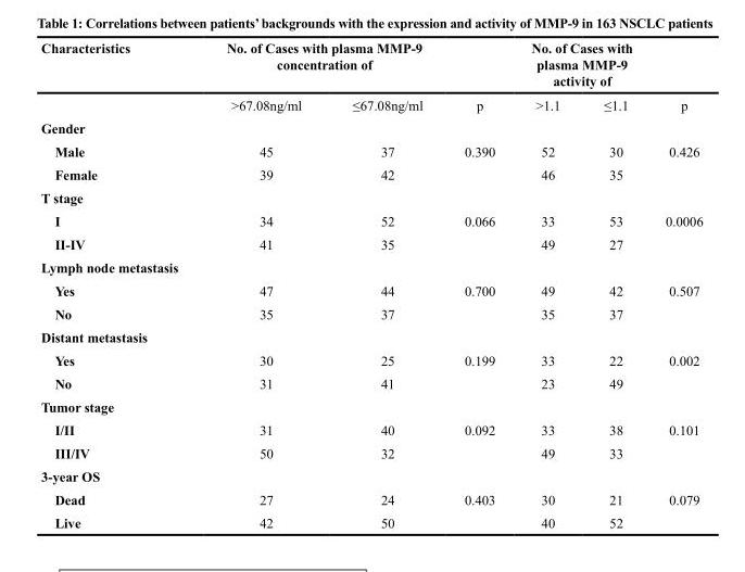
<table><thead><tr><td rowspan="2">Characteristics</td><td colspan="3">No. of Cases with plasma MMP-9 concentration of</td><td colspan="3">No. of Cases with plasma MMP-9 activity of</td></tr><tr><td>&gt;67.08ng/ml</td><td>≤67.08ng/ml</td><td>p</td><td>&gt;1.1</td><td>≤1.1</td><td>p</td></tr></thead><tbody><tr><td colspan="7">Gender</td></tr><tr><td>Male</td><td>45</td><td>37</td><td>0.390</td><td>52</td><td>30</td><td>0.426</td></tr><tr><td>Female</td><td>39</td><td>42</td><td></td><td>46</td><td>35</td><td></td></tr><tr><td colspan="7">T stage</td></tr><tr><td>I</td><td>34</td><td>52</td><td>0.066</td><td>33</td><td>53</td><td>0.0006</td></tr><tr><td>II-IV</td><td>41</td><td>35</td><td></td><td>49</td><td>27</td><td></td></tr><tr><td colspan="7">Lymph node metastasis</td></tr><tr><td>Yes</td><td>47</td><td>44</td><td>0.700</td><td>49</td><td>42</td><td>0.507</td></tr><tr><td>No</td><td>35</td><td>37</td><td></td><td>35</td><td>37</td><td></td></tr><tr><td colspan="7">Distant metastasis</td></tr><tr><td>Yes</td><td>30</td><td>25</td><td>0.199</td><td>33</td><td>22</td><td>0.002</td></tr><tr><td>No</td><td>31</td><td>41</td><td></td><td>23</td><td>49</td><td></td></tr><tr><td colspan="7">Tumor stage</td></tr><tr><td>I/II</td><td>31</td><td>40</td><td>0.092</td><td>33</td><td>38</td><td>0.101</td></tr><tr><td>III/IV</td><td>50</td><td>32</td><td></td><td>49</td><td>33</td><td></td></tr><tr><td colspan="7">3-year OS</td></tr><tr><td>Dead</td><td>27</td><td>24</td><td>0.403</td><td>30</td><td>21</td><td>0.079</td></tr><tr><td>Live</td><td>42</td><td>50</td><td></td><td>40</td><td>52</td><td></td></tr></tbody></table>